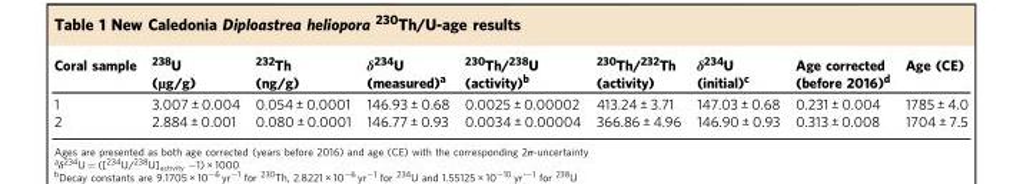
<table><thead><tr><td>Coral sample</td><td><sup>238</sup>U (µg/g)</td><td><sup>232</sup>Th (ng/g)</td><td>δ<sup>234</sup>U (measured)<sup>a</sup></td><td><sup>230</sup>Th/<sup>238</sup>U (activity)<sup>b</sup></td><td><sup>230</sup>Th/<sup>232</sup>Th (activity)</td><td>δ<sup>234</sup>U (initial)<sup>c</sup></td><td>Age corrected (before 2016)<sup>d</sup></td><td>Age (CE)</td></tr></thead><tbody><tr><td>1</td><td>3.007 ± 0.004</td><td>0.054 ± 0.0001</td><td>146.93 ± 0.68</td><td>0.0025 ± 0.00002</td><td>413.24 ± 3.71</td><td>147.03 ± 0.68</td><td>0.231 ± 0.004</td><td>1785 ± 4.0</td></tr><tr><td>2</td><td>2.884 ± 0.001</td><td>0.080 ± 0.0001</td><td>146.77 ± 0.93</td><td>0.0034 ± 0.00004</td><td>366.86 ± 4.96</td><td>146.90 ± 0.93</td><td>0.313 ± 0.008</td><td>1704 ± 7.5</td></tr></tbody></table>